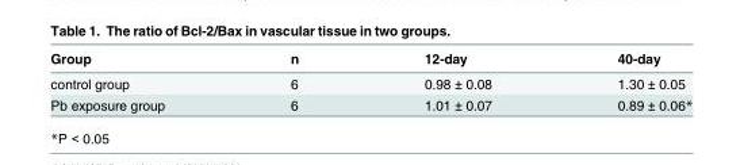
<table><thead><tr><td>Group</td><td>n</td><td>12-day</td><td>40-day</td></tr></thead><tbody><tr><td>control group</td><td>6</td><td>0.98 ± 0.08</td><td>1.30 ± 0.05</td></tr><tr><td>Pb exposure group</td><td>6</td><td>1.01 ± 0.07</td><td>0.89 ± 0.06*</td></tr></tbody></table>